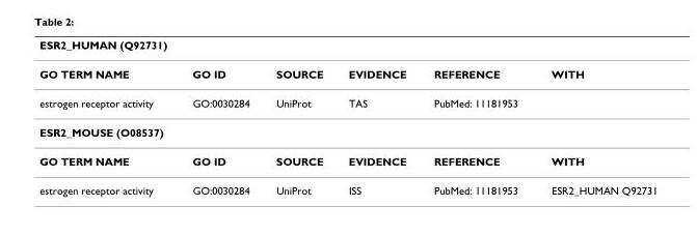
<table><thead><tr><td colspan="6">ESR2_HUMAN (Q92731)</td></tr><tr><td>GO TERM NAME</td><td>GO ID</td><td>SOURCE</td><td>EVIDENCE</td><td>REFERENCE</td><td>WITH</td></tr></thead><tbody><tr><td>estrogen receptor activity</td><td>GO:0030284</td><td>UniProt</td><td>TAS</td><td>PubMed: 11181953</td><td></td></tr><tr><td colspan="6">ESR2_MOUSE (O08537)</td></tr><tr><td>GO TERM NAME</td><td>GO ID</td><td>SOURCE</td><td>EVIDENCE</td><td>REFERENCE</td><td>WITH</td></tr><tr><td>estrogen receptor activity</td><td>GO:0030284</td><td>UniProt</td><td>ISS</td><td>PubMed: 11181953</td><td>ESR2_HUMAN Q92731</td></tr></tbody></table>